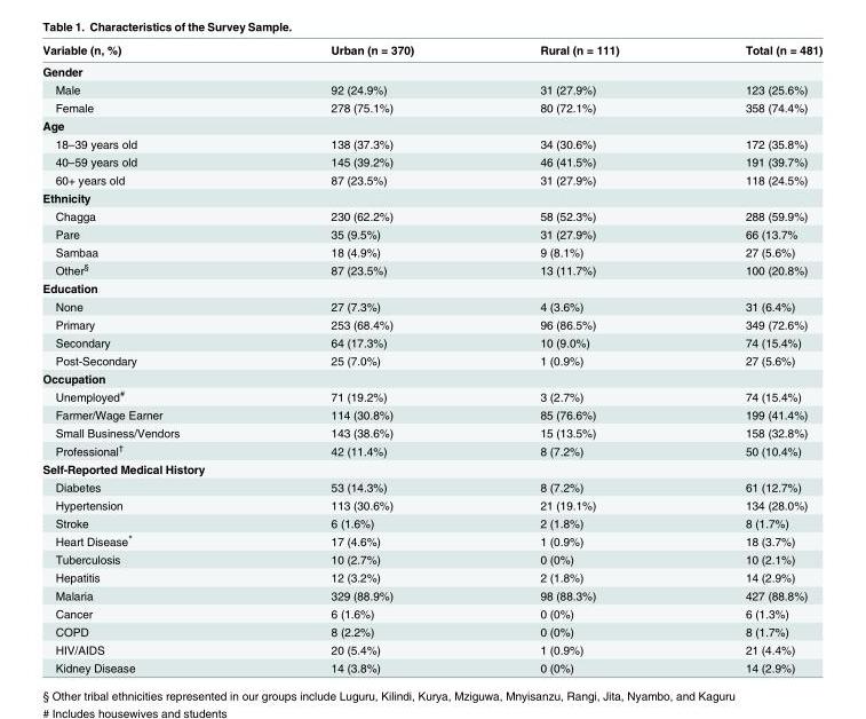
<table><thead><tr><td>Variable (n, %)</td><td>Urban (n = 370)</td><td>Rural (n = 111)</td><td>Total (n = 481)</td></tr></thead><tbody><tr><td colspan="4">Gender</td></tr><tr><td>Male</td><td>92 (24.9%)</td><td>31 (27.9%)</td><td>123 (25.6%)</td></tr><tr><td>Female</td><td>278 (75.1%)</td><td>80 (72.1%)</td><td>358 (74.4%)</td></tr><tr><td colspan="4">Age</td></tr><tr><td>18–39 years old</td><td>138 (37.3%)</td><td>34 (30.6%)</td><td>172 (35.8%)</td></tr><tr><td>40–59 years old</td><td>145 (39.2%)</td><td>46 (41.5%)</td><td>191 (39.7%)</td></tr><tr><td>60+ years old</td><td>87 (23.5%)</td><td>31 (27.9%)</td><td>118 (24.5%)</td></tr><tr><td colspan="4">Ethnicity</td></tr><tr><td>Chagga</td><td>230 (62.2%)</td><td>58 (52.3%)</td><td>288 (59.9%)</td></tr><tr><td>Pare</td><td>35 (9.5%)</td><td>31 (27.9%)</td><td>66 (13.7%</td></tr><tr><td>Sambaa</td><td>18 (4.9%)</td><td>9 (8.1%)</td><td>27 (5.6%)</td></tr><tr><td>Other<sup>§</sup></td><td>87 (23.5%)</td><td>13 (11.7%)</td><td>100 (20.8%)</td></tr><tr><td colspan="4">Education</td></tr><tr><td>None</td><td>27 (7.3%)</td><td>4 (3.6%)</td><td>31 (6.4%)</td></tr><tr><td>Primary</td><td>253 (68.4%)</td><td>96 (86.5%)</td><td>349 (72.6%)</td></tr><tr><td>Secondary</td><td>64 (17.3%)</td><td>10 (9.0%)</td><td>74 (15.4%)</td></tr><tr><td>Post-Secondary</td><td>25 (7.0%)</td><td>1 (0.9%)</td><td>27 (5.6%)</td></tr><tr><td colspan="4">Occupation</td></tr><tr><td>Unemployed<sup>#</sup></td><td>71 (19.2%)</td><td>3 (2.7%)</td><td>74 (15.4%)</td></tr><tr><td>Farmer/Wage Earner</td><td>114 (30.8%)</td><td>85 (76.6%)</td><td>199 (41.4%)</td></tr><tr><td>Small Business/Vendors</td><td>143 (38.6%)</td><td>15 (13.5%)</td><td>158 (32.8%)</td></tr><tr><td>Professional<sup>†</sup></td><td>42 (11.4%)</td><td>8 (7.2%)</td><td>50 (10.4%)</td></tr><tr><td colspan="4">Self-Reported Medical History</td></tr><tr><td>Diabetes</td><td>53 (14.3%)</td><td>8 (7.2%)</td><td>61 (12.7%)</td></tr><tr><td>Hypertension</td><td>113 (30.6%)</td><td>21 (19.1%)</td><td>134 (28.0%)</td></tr><tr><td>Stroke</td><td>6 (1.6%)</td><td>2 (1.8%)</td><td>8 (1.7%)</td></tr><tr><td>Heart Disease*</td><td>17 (4.6%)</td><td>1 (0.9%)</td><td>18 (3.7%)</td></tr><tr><td>Tuberculosis</td><td>10 (2.7%)</td><td>0 (0%)</td><td>10 (2.1%)</td></tr><tr><td>Hepatitis</td><td>12 (3.2%)</td><td>2 (1.8%)</td><td>14 (2.9%)</td></tr><tr><td>Malaria</td><td>329 (88.9%)</td><td>98 (88.3%)</td><td>427 (88.8%)</td></tr><tr><td>Cancer</td><td>6 (1.6%)</td><td>0 (0%)</td><td>6 (1.3%)</td></tr><tr><td>COPD</td><td>8 (2.2%)</td><td>0 (0%)</td><td>8 (1.7%)</td></tr><tr><td>HIV/AIDS</td><td>20 (5.4%)</td><td>1 (0.9%)</td><td>21 (4.4%)</td></tr><tr><td>Kidney Disease</td><td>14 (3.8%)</td><td>0 (0%)</td><td>14 (2.9%)</td></tr></tbody></table>